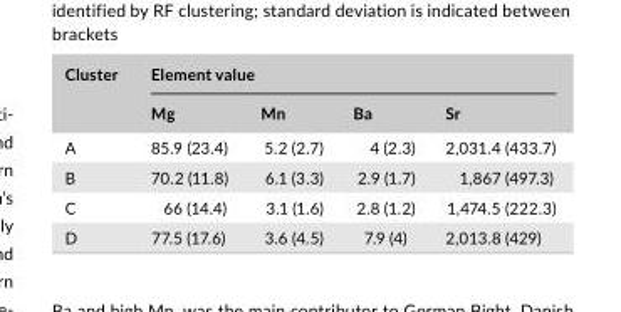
<table><thead><tr><td rowspan="2">Cluster</td><td colspan="4">Element value</td></tr><tr><td>Mg</td><td>Mn</td><td>Ba</td><td>Sr</td></tr></thead><tbody><tr><td>A</td><td>85.9 (23.4)</td><td>5.2 (2.7)</td><td>4 (2.3)</td><td>2,031.4 (433.7)</td></tr><tr><td>B</td><td>70.2 (11.8)</td><td>6.1 (3.3)</td><td>2.9 (1.7)</td><td>1,867 (497.3)</td></tr><tr><td>C</td><td>66 (14.4)</td><td>3.1 (1.6)</td><td>2.8 (1.2)</td><td>1,474.5 (222.3)</td></tr><tr><td>D</td><td>77.5 (17.6)</td><td>3.6 (4.5)</td><td>7.9 (4)</td><td>2,013.8 (429)</td></tr></tbody></table>